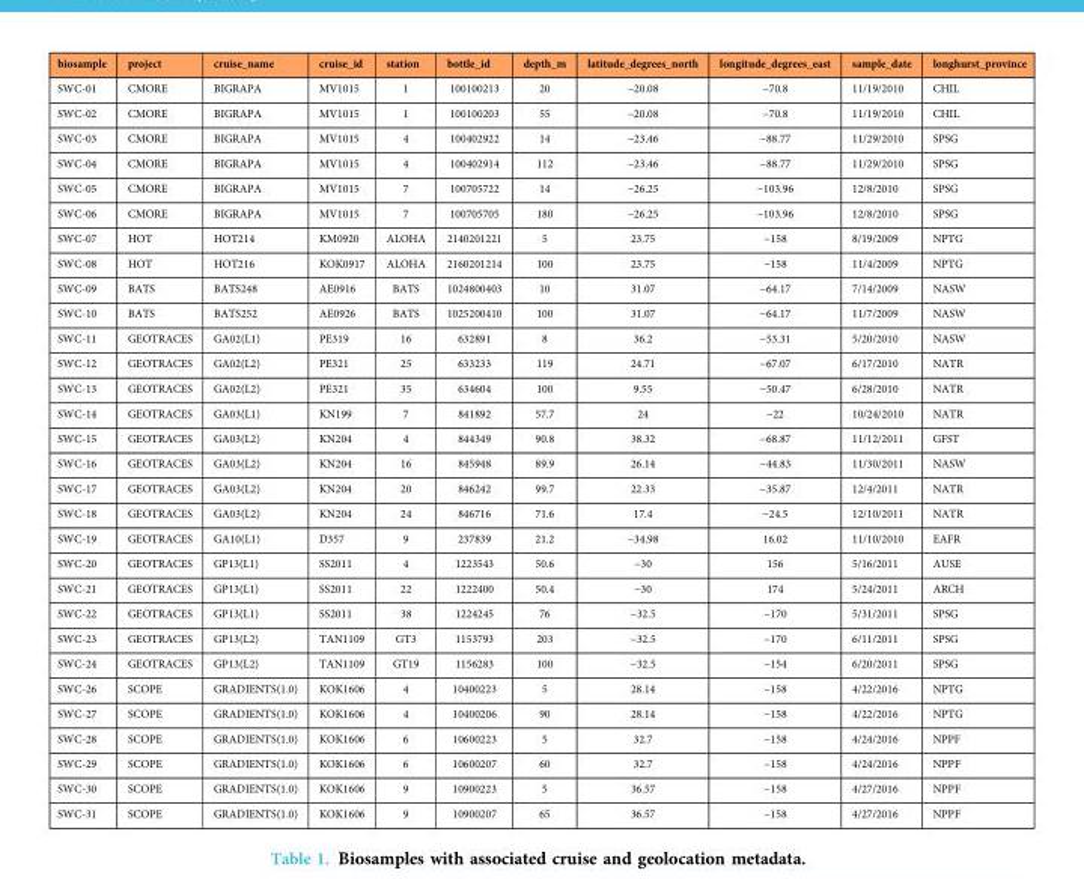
<table><thead><tr><td>biosample</td><td>project</td><td>cruise_name</td><td>cruise_id</td><td>station</td><td>bottle_id</td><td>depth_m</td><td>latitude_degrees_north</td><td>longitude_degrees_east</td><td>sample_date</td><td>longhurst_province</td></tr></thead><tbody><tr><td>SWC-01</td><td>CMORE</td><td>BIGRAPA</td><td>MV1015</td><td>1</td><td>100100213</td><td>20</td><td>−20.08</td><td>−70.8</td><td>11/19/2010</td><td>CHIL</td></tr><tr><td>SWC-02</td><td>CMORE</td><td>BIGRAPA</td><td>MV1015</td><td>1</td><td>100100203</td><td>55</td><td>−20.08</td><td>−70.8</td><td>11/19/2010</td><td>CHIL</td></tr><tr><td>SWC-03</td><td>CMORE</td><td>BIGRAPA</td><td>MV1015</td><td>4</td><td>100402922</td><td>14</td><td>−23.46</td><td>−88.77</td><td>11/29/2010</td><td>SPSG</td></tr><tr><td>SWC-04</td><td>CMORE</td><td>BIGRAPA</td><td>MV1015</td><td>4</td><td>100402914</td><td>112</td><td>−23.46</td><td>−88.77</td><td>11/29/2010</td><td>SPSG</td></tr><tr><td>SWC-05</td><td>CMORE</td><td>BIGRAPA</td><td>MV1015</td><td>7</td><td>100705722</td><td>14</td><td>−26.25</td><td>−103.96</td><td>12/8/2010</td><td>SPSG</td></tr><tr><td>SWC-06</td><td>CMORE</td><td>BIGRAPA</td><td>MV1015</td><td>7</td><td>100705705</td><td>180</td><td>−26.25</td><td>−103.96</td><td>12/8/2010</td><td>SPSG</td></tr><tr><td>SWC-07</td><td>HOT</td><td>HOT214</td><td>KM0920</td><td>ALOHA</td><td>2140201221</td><td>5</td><td>23.75</td><td>−158</td><td>8/19/2009</td><td>NPTG</td></tr><tr><td>SWC-08</td><td>HOT</td><td>HOT216</td><td>KOK0917</td><td>ALOHA</td><td>2160201214</td><td>100</td><td>23.75</td><td>−158</td><td>11/4/2009</td><td>NPTG</td></tr><tr><td>SWC-09</td><td>BATS</td><td>BATS248</td><td>AE0916</td><td>BATS</td><td>1024800403</td><td>10</td><td>31.07</td><td>−64.17</td><td>7/14/2009</td><td>NASW</td></tr><tr><td>SWC-10</td><td>BATS</td><td>BATS252</td><td>AE0926</td><td>BATS</td><td>1025200410</td><td>100</td><td>31.07</td><td>−64.17</td><td>11/7/2009</td><td>NASW</td></tr><tr><td>SWC-11</td><td>GEOTRACES</td><td>GA02(L1)</td><td>PE319</td><td>16</td><td>632891</td><td>8</td><td>36.2</td><td>−53.31</td><td>5/20/2010</td><td>NASW</td></tr><tr><td>SWC-12</td><td>GEOTRACES</td><td>GA02(L2)</td><td>PE321</td><td>25</td><td>633233</td><td>119</td><td>24.71</td><td>−67.07</td><td>6/17/2010</td><td>NATR</td></tr><tr><td>SWC-13</td><td>GEOTRACES</td><td>GA02(L2)</td><td>PE321</td><td>35</td><td>634604</td><td>100</td><td>9.55</td><td>−50.47</td><td>6/28/2010</td><td>NATR</td></tr><tr><td>SWC-14</td><td>GEOTRACES</td><td>GA03(L1)</td><td>KN199</td><td>7</td><td>841892</td><td>57.7</td><td>24</td><td>−22</td><td>10/24/2010</td><td>NATR</td></tr><tr><td>SWC-15</td><td>GEOTRACES</td><td>GA03(L2)</td><td>KN204</td><td>4</td><td>844349</td><td>90.8</td><td>38.32</td><td>−68.87</td><td>11/12/2011</td><td>GFST</td></tr><tr><td>SWC-16</td><td>GEOTRACES</td><td>GA03(L2)</td><td>KN204</td><td>16</td><td>845948</td><td>89.9</td><td>26.14</td><td>−44.83</td><td>11/30/2011</td><td>NASW</td></tr><tr><td>SWC-17</td><td>GEOTRACES</td><td>GA03(L2)</td><td>KN204</td><td>20</td><td>846242</td><td>99.7</td><td>22.33</td><td>−35.87</td><td>12/4/2011</td><td>NATR</td></tr><tr><td>SWC-18</td><td>GEOTRACES</td><td>GA03(L2)</td><td>KN204</td><td>24</td><td>846716</td><td>71.6</td><td>17.4</td><td>−24.5</td><td>12/10/2011</td><td>NATR</td></tr><tr><td>SWC-19</td><td>GEOTRACES</td><td>GA10(L1)</td><td>D357</td><td>9</td><td>237839</td><td>21.2</td><td>−34.98</td><td>16.02</td><td>11/10/2010</td><td>EAFR</td></tr><tr><td>SWC-20</td><td>GEOTRACES</td><td>GP13(L1)</td><td>SS2011</td><td>4</td><td>1223543</td><td>50.6</td><td>−30</td><td>156</td><td>5/16/2011</td><td>AUSE</td></tr><tr><td>SWC-21</td><td>GEOTRACES</td><td>GP13(L1)</td><td>SS2011</td><td>22</td><td>1222400</td><td>50.4</td><td>−30</td><td>174</td><td>5/24/2011</td><td>ARCH</td></tr><tr><td>SWC-22</td><td>GEOTRACES</td><td>GP13(L1)</td><td>SS2011</td><td>38</td><td>1224245</td><td>76</td><td>−32.5</td><td>−170</td><td>5/31/2011</td><td>SPSG</td></tr><tr><td>SWC-23</td><td>GEOTRACES</td><td>GP13(L2)</td><td>TAN1109</td><td>GT3</td><td>1153793</td><td>203</td><td>−32.5</td><td>−170</td><td>6/11/2011</td><td>SPSG</td></tr><tr><td>SWC-24</td><td>GEOTRACES</td><td>GP13(L2)</td><td>TAN1109</td><td>GT19</td><td>1156283</td><td>100</td><td>−32.5</td><td>−154</td><td>6/20/2011</td><td>SPSG</td></tr><tr><td>SWC-26</td><td>SCOPE</td><td>GRADIENTS(1.0)</td><td>KOK1606</td><td>4</td><td>10400223</td><td>5</td><td>28.14</td><td>−158</td><td>4/22/2016</td><td>NPTG</td></tr><tr><td>SWC-27</td><td>SCOPE</td><td>GRADIENTS(1.0)</td><td>KOK1606</td><td>4</td><td>10400206</td><td>90</td><td>28.14</td><td>−158</td><td>4/22/2016</td><td>NPTG</td></tr><tr><td>SWC-28</td><td>SCOPE</td><td>GRADIENTS(1.0)</td><td>KOK1606</td><td>6</td><td>10600223</td><td>5</td><td>32.7</td><td>−158</td><td>4/24/2016</td><td>NPPF</td></tr><tr><td>SWC-29</td><td>SCOPE</td><td>GRADIENTS(1.0)</td><td>KOK1606</td><td>6</td><td>10600207</td><td>60</td><td>32.7</td><td>−158</td><td>4/24/2016</td><td>NPPF</td></tr><tr><td>SWC-30</td><td>SCOPE</td><td>GRADIENTS(1.0)</td><td>KOK1606</td><td>9</td><td>10900223</td><td>5</td><td>36.57</td><td>−158</td><td>4/27/2016</td><td>NPPF</td></tr><tr><td>SWC-31</td><td>SCOPE</td><td>GRADIENTS(1.0)</td><td>KOK1606</td><td>9</td><td>10900207</td><td>65</td><td>36.57</td><td>−158</td><td>4/27/2016</td><td>NPPF</td></tr></tbody></table>